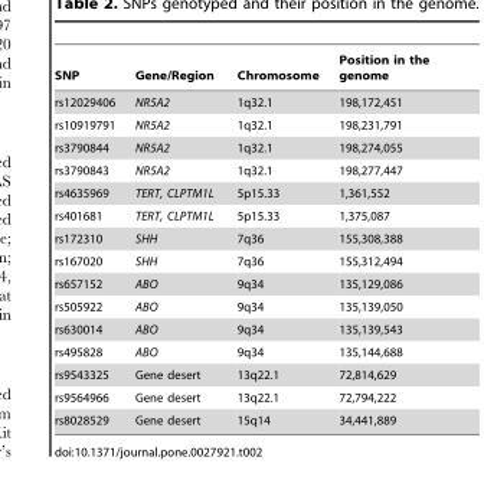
<table><thead><tr><td>SNP</td><td>Gene/Region</td><td>Chromosome</td><td>Position in the genome</td></tr></thead><tbody><tr><td>rs12029406</td><td>NR5A2</td><td>1q32.1</td><td>198,172,451</td></tr><tr><td>rs10919791</td><td>NR5A2</td><td>1q32.1</td><td>198,231,791</td></tr><tr><td>rs3790844</td><td>NR5A2</td><td>1q32.1</td><td>198,274,055</td></tr><tr><td>rs3790843</td><td>NR5A2</td><td>1q32.1</td><td>198,277,447</td></tr><tr><td>rs4635969</td><td>TERT, CLPTM1L</td><td>5p15.33</td><td>1,361,552</td></tr><tr><td>rs401681</td><td>TERT, CLPTM1L</td><td>5p15.33</td><td>1,375,087</td></tr><tr><td>rs172310</td><td>SHH</td><td>7q36</td><td>155,308,388</td></tr><tr><td>rs167020</td><td>SHH</td><td>7q36</td><td>155,312,494</td></tr><tr><td>rs657152</td><td>ABO</td><td>9q34</td><td>135,129,086</td></tr><tr><td>rs505922</td><td>ABO</td><td>9q34</td><td>135,139,050</td></tr><tr><td>rs630014</td><td>ABO</td><td>9q34</td><td>135,139,543</td></tr><tr><td>rs495828</td><td>ABO</td><td>9q34</td><td>135,144,688</td></tr><tr><td>rs9543325</td><td>Gene desert</td><td>13q22.1</td><td>72,814,629</td></tr><tr><td>rs9564966</td><td>Gene desert</td><td>13q22.1</td><td>72,794,222</td></tr><tr><td>rs8028529</td><td>Gene desert</td><td>15q14</td><td>34,441,889</td></tr></tbody></table>